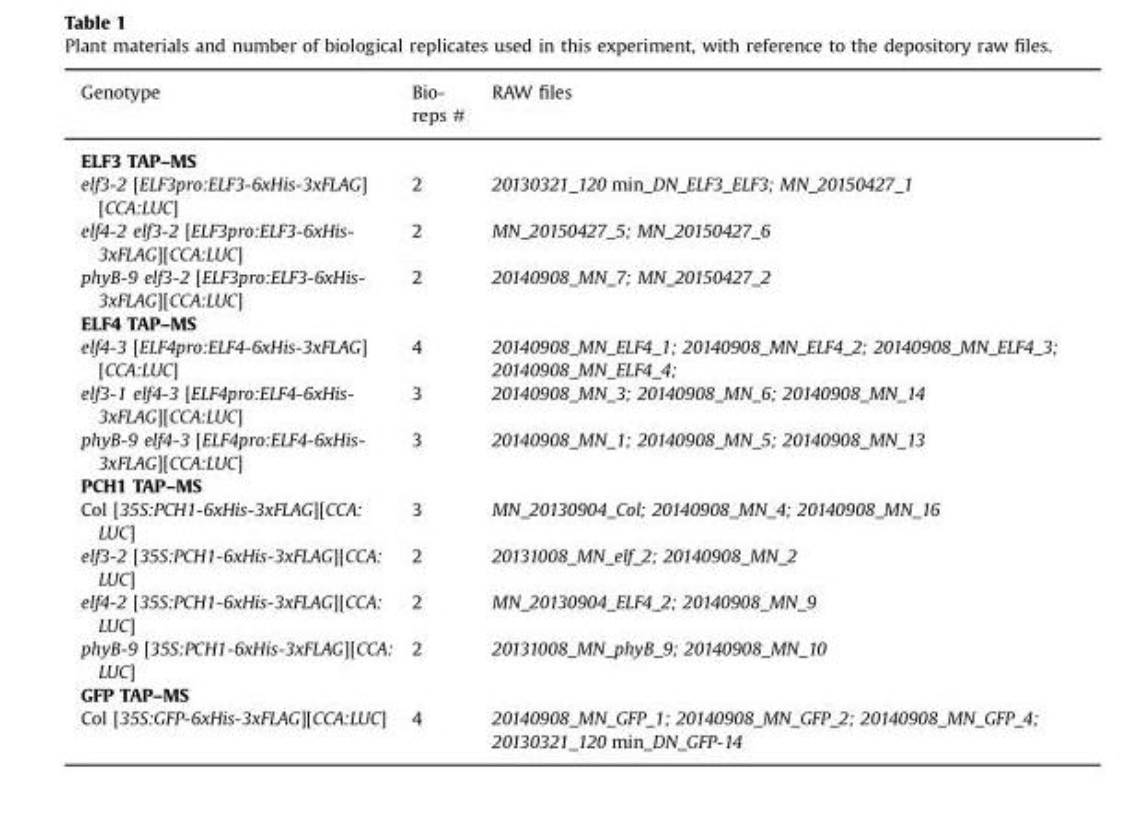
<table><thead><tr><td>Genotype</td><td>Bio- reps #</td><td>RAW files</td></tr></thead><tbody><tr><td colspan="3">ELF3 TAP–MS</td></tr><tr><td>elf3-2 [ELF3pro:ELF3-6xHis-3xFLAG] [CCA:LUC]</td><td>2</td><td>20130321_120 min_DN_ELF3_ELF3; MN_20150427_1</td></tr><tr><td>elf4-2 elf3-2 [ELF3pro:ELF3-6xHis- 3xFLAG][CCA:LUC]</td><td>2</td><td>MN_20150427_5; MN_20150427_6</td></tr><tr><td>phyB-9 elf3-2 [ELF3pro:ELF3-6xHis- 3xFLAG][CCA:LUC]</td><td>2</td><td>20140908_MN_7; MN_20150427_2</td></tr><tr><td colspan="3">ELF4 TAP–MS</td></tr><tr><td>elf4-3 [ELF4pro:ELF4-6xHis-3xFLAG] [CCA:LUC]</td><td>4</td><td>20140908_MN_ELF4_1; 20140908_MN_ELF4_2; 20140908_MN_ELF4_3; 20140908_MN_ELF4_4;</td></tr><tr><td>elf3-1 elf4-3 [ELF4pro:ELF4-6xHis- 3xFLAG][CCA:LUC]</td><td>3</td><td>20140908_MN_3; 20140908_MN_6; 20140908_MN_14</td></tr><tr><td>phyB-9 elf4-3 [ELF4pro:ELF4-6xHis- 3xFLAG][CCA:LUC]</td><td>3</td><td>20140908_MN_1; 20140908_MN_5; 20140908_MN_13</td></tr><tr><td colspan="3">PCH1 TAP–MS</td></tr><tr><td>Col [35S:PCH1-6xHis-3xFLAG][CCA: LUC]</td><td>3</td><td>MN_20130904_Col; 20140908_MN_4; 20140908_MN_16</td></tr><tr><td>elf3-2 [35S:PCH1-6xHis-3xFLAG][CCA: LUC]</td><td>2</td><td>20131008_MN_elf_2; 20140908_MN_2</td></tr><tr><td>elf4-2 [35S:PCH1-6xHis-3xFLAG][CCA: LUC]</td><td>2</td><td>MN_20130904_ELF4_2; 20140908_MN_9</td></tr><tr><td>phyB-9 [35S:PCH1-6xHis-3xFLAG][CCA: LUC]</td><td>2</td><td>20131008_MN_phyB_9; 20140908_MN_10</td></tr><tr><td colspan="3">GFP TAP–MS</td></tr><tr><td>Col [35S:GFP-6xHis-3xFLAG][CCA:LUC]</td><td>4</td><td>20140908_MN_GFP_1; 20140908_MN_GFP_2; 20140908_MN_GFP_4; 20130321_120 min_DN_GFP-14</td></tr></tbody></table>